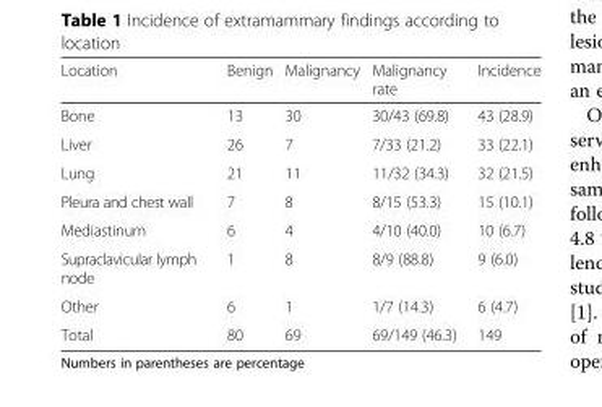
<table><thead><tr><td>Location</td><td>Benign</td><td>Malignancy</td><td>Malignancy rate</td><td>Incidence</td></tr></thead><tbody><tr><td>Bone</td><td>13</td><td>30</td><td>30/43 (69.8)</td><td>43 (28.9)</td></tr><tr><td>Liver</td><td>26</td><td>7</td><td>7/33 (21.2)</td><td>33 (22.1)</td></tr><tr><td>Lung</td><td>21</td><td>11</td><td>11/32 (34.3)</td><td>32 (21.5)</td></tr><tr><td>Pleura and chest wall</td><td>7</td><td>8</td><td>8/15 (53.3)</td><td>15 (10.1)</td></tr><tr><td>Mediastinum</td><td>6</td><td>4</td><td>4/10 (40.0)</td><td>10 (6.7)</td></tr><tr><td>Supraclavicular lymph node</td><td>1</td><td>8</td><td>8/9 (88.8)</td><td>9 (6.0)</td></tr><tr><td>Other</td><td>6</td><td>1</td><td>1/7 (14.3)</td><td>6 (4.7)</td></tr><tr><td>Total</td><td>80</td><td>69</td><td>69/149 (46.3)</td><td>149</td></tr></tbody></table>